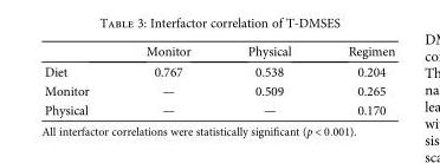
<table><thead><tr><td></td><td>Monitor</td><td>Physical</td><td>Regimen</td></tr></thead><tbody><tr><td>Diet</td><td>0.767</td><td>0.538</td><td>0.204</td></tr><tr><td>Monitor</td><td>—</td><td>0.509</td><td>0.265</td></tr><tr><td>Physical</td><td>—</td><td>—</td><td>0.170</td></tr></tbody></table>